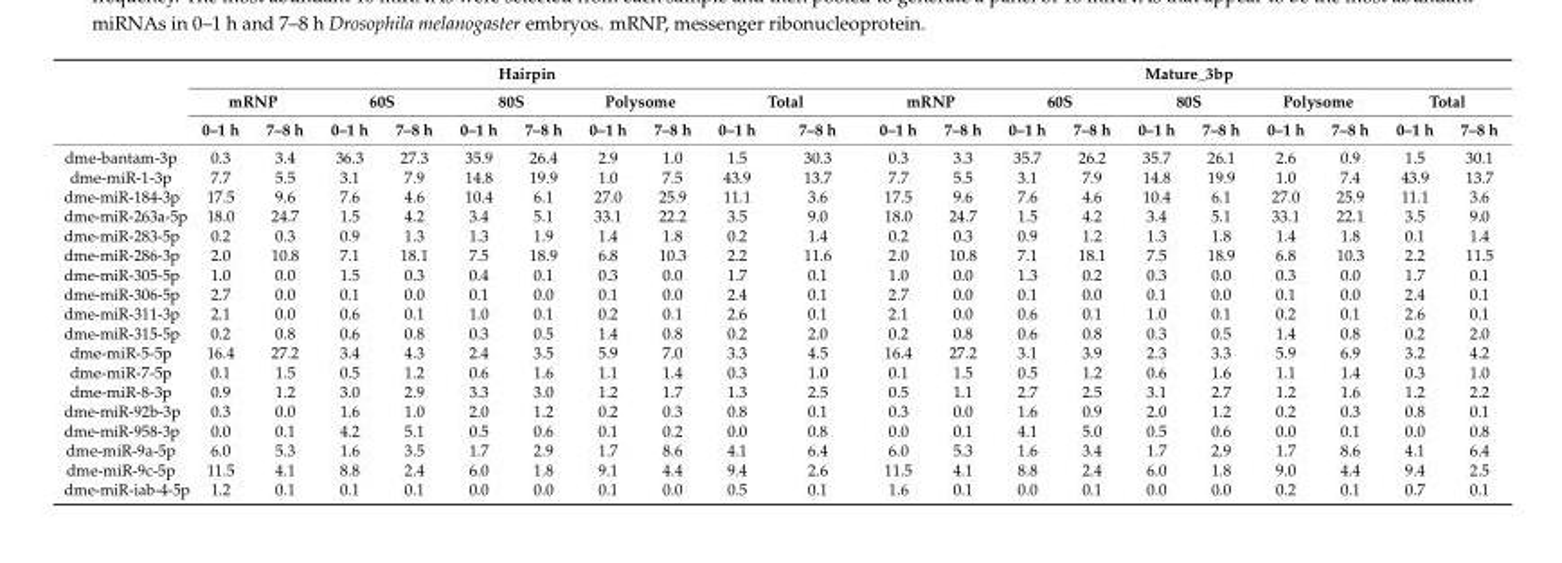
<table><thead><tr><td rowspan="3"></td><td colspan="10">Hairpin</td><td colspan="10">Mature_3bp</td></tr><tr><td colspan="2">mRNP</td><td colspan="2">60S</td><td colspan="2">80S</td><td colspan="2">Polysome</td><td colspan="2">Total</td><td colspan="2">mRNP</td><td colspan="2">60S</td><td colspan="2">80S</td><td colspan="2">Polysome</td><td colspan="2">Total</td></tr><tr><td>0–1 h</td><td>7–8 h</td><td>0–1 h</td><td>7–8 h</td><td>0–1 h</td><td>7–8 h</td><td>0–1 h</td><td>7–8 h</td><td>0–1 h</td><td>7–8 h</td><td>0–1 h</td><td>7–8 h</td><td>0–1 h</td><td>7–8 h</td><td>0–1 h</td><td>7–8 h</td><td>0–1 h</td><td>7–8 h</td><td>0–1 h</td><td>7–8 h</td></tr></thead><tbody><tr><td>dme-bantam-3p</td><td>0.3</td><td>3.4</td><td>36.3</td><td>27.3</td><td>35.9</td><td>26.4</td><td>2.9</td><td>1.0</td><td>1.5</td><td>30.3</td><td>0.3</td><td>3.3</td><td>35.7</td><td>26.2</td><td>35.7</td><td>26.1</td><td>2.6</td><td>0.9</td><td>1.5</td><td>30.1</td></tr><tr><td>dme-miR-1-3p</td><td>7.7</td><td>5.5</td><td>3.1</td><td>7.9</td><td>14.8</td><td>19.9</td><td>1.0</td><td>7.5</td><td>43.9</td><td>13.7</td><td>7.7</td><td>5.5</td><td>3.1</td><td>7.9</td><td>14.8</td><td>19.9</td><td>1.0</td><td>7.4</td><td>43.9</td><td>13.7</td></tr><tr><td>dme-miR-184-3p</td><td>17.5</td><td>9.6</td><td>7.6</td><td>4.6</td><td>10.4</td><td>6.1</td><td>27.0</td><td>25.9</td><td>11.1</td><td>3.6</td><td>17.5</td><td>9.6</td><td>7.6</td><td>4.6</td><td>10.4</td><td>6.1</td><td>27.0</td><td>25.9</td><td>11.1</td><td>3.6</td></tr><tr><td>dme-miR-263a-5p</td><td>18.0</td><td>24.7</td><td>1.5</td><td>4.2</td><td>3.4</td><td>5.1</td><td>33.1</td><td>22.2</td><td>3.5</td><td>9.0</td><td>18.0</td><td>24.7</td><td>1.5</td><td>4.2</td><td>3.4</td><td>5.1</td><td>33.1</td><td>22.1</td><td>3.5</td><td>9.0</td></tr><tr><td>dme-miR-283-5p</td><td>0.2</td><td>0.3</td><td>0.9</td><td>1.3</td><td>1.3</td><td>1.9</td><td>1.4</td><td>1.8</td><td>0.2</td><td>1.4</td><td>0.2</td><td>0.3</td><td>0.9</td><td>1.2</td><td>1.3</td><td>1.8</td><td>1.4</td><td>1.8</td><td>0.1</td><td>1.4</td></tr><tr><td>dme-miR-286-3p</td><td>2.0</td><td>10.8</td><td>7.1</td><td>18.1</td><td>7.5</td><td>18.9</td><td>6.8</td><td>10.3</td><td>2.2</td><td>11.6</td><td>2.0</td><td>10.8</td><td>7.1</td><td>18.1</td><td>7.5</td><td>18.9</td><td>6.8</td><td>10.3</td><td>2.2</td><td>11.5</td></tr><tr><td>dme-miR-305-5p</td><td>1.0</td><td>0.0</td><td>1.5</td><td>0.3</td><td>0.4</td><td>0.1</td><td>0.3</td><td>0.0</td><td>1.7</td><td>0.1</td><td>1.0</td><td>0.0</td><td>1.3</td><td>0.2</td><td>0.3</td><td>0.0</td><td>0.3</td><td>0.0</td><td>1.7</td><td>0.1</td></tr><tr><td>dme-miR-306-5p</td><td>2.7</td><td>0.0</td><td>0.1</td><td>0.0</td><td>0.1</td><td>0.0</td><td>0.1</td><td>0.0</td><td>2.4</td><td>0.1</td><td>2.7</td><td>0.0</td><td>0.1</td><td>0.0</td><td>0.1</td><td>0.0</td><td>0.1</td><td>0.0</td><td>2.4</td><td>0.1</td></tr><tr><td>dme-miR-311-3p</td><td>2.1</td><td>0.0</td><td>0.6</td><td>0.1</td><td>1.0</td><td>0.1</td><td>0.2</td><td>0.1</td><td>2.6</td><td>0.1</td><td>2.1</td><td>0.0</td><td>0.6</td><td>0.1</td><td>1.0</td><td>0.1</td><td>0.2</td><td>0.1</td><td>2.6</td><td>0.1</td></tr><tr><td>dme-miR-315-5p</td><td>0.2</td><td>0.8</td><td>0.6</td><td>0.8</td><td>0.3</td><td>0.5</td><td>1.4</td><td>0.8</td><td>0.2</td><td>2.0</td><td>0.2</td><td>0.8</td><td>0.6</td><td>0.8</td><td>0.3</td><td>0.5</td><td>1.4</td><td>0.8</td><td>0.2</td><td>2.0</td></tr><tr><td>dme-miR-5-5p</td><td>16.4</td><td>27.2</td><td>3.4</td><td>4.3</td><td>2.4</td><td>3.5</td><td>5.9</td><td>7.0</td><td>3.3</td><td>4.5</td><td>16.4</td><td>27.2</td><td>3.1</td><td>3.9</td><td>2.3</td><td>3.3</td><td>5.9</td><td>6.9</td><td>3.2</td><td>4.2</td></tr><tr><td>dme-miR-7-5p</td><td>0.1</td><td>1.5</td><td>0.5</td><td>1.2</td><td>0.6</td><td>1.6</td><td>1.1</td><td>1.4</td><td>0.3</td><td>1.0</td><td>0.1</td><td>1.5</td><td>0.5</td><td>1.2</td><td>0.6</td><td>1.6</td><td>1.1</td><td>1.4</td><td>0.3</td><td>1.0</td></tr><tr><td>dme-miR-8-3p</td><td>0.9</td><td>1.2</td><td>3.0</td><td>2.9</td><td>3.3</td><td>3.0</td><td>1.2</td><td>1.7</td><td>1.3</td><td>2.5</td><td>0.5</td><td>1.1</td><td>2.7</td><td>2.5</td><td>3.1</td><td>2.7</td><td>1.2</td><td>1.6</td><td>1.2</td><td>2.2</td></tr><tr><td>dme-miR-92b-3p</td><td>0.3</td><td>0.0</td><td>1.6</td><td>1.0</td><td>2.0</td><td>1.2</td><td>0.2</td><td>0.3</td><td>0.8</td><td>0.1</td><td>0.3</td><td>0.0</td><td>1.6</td><td>0.9</td><td>2.0</td><td>1.2</td><td>0.2</td><td>0.3</td><td>0.8</td><td>0.1</td></tr><tr><td>dme-miR-958-3p</td><td>0.0</td><td>0.1</td><td>4.2</td><td>5.1</td><td>0.5</td><td>0.6</td><td>0.1</td><td>0.2</td><td>0.0</td><td>0.8</td><td>0.0</td><td>0.1</td><td>4.1</td><td>5.0</td><td>0.5</td><td>0.6</td><td>0.0</td><td>0.1</td><td>0.0</td><td>0.8</td></tr><tr><td>dme-miR-9a-5p</td><td>6.0</td><td>5.3</td><td>1.6</td><td>3.5</td><td>1.7</td><td>2.9</td><td>1.7</td><td>8.6</td><td>4.1</td><td>6.4</td><td>6.0</td><td>5.3</td><td>1.6</td><td>3.4</td><td>1.7</td><td>2.9</td><td>1.7</td><td>8.6</td><td>4.1</td><td>6.4</td></tr><tr><td>dme-miR-9c-5p</td><td>11.5</td><td>4.1</td><td>8.8</td><td>2.4</td><td>6.0</td><td>1.8</td><td>9.1</td><td>4.4</td><td>9.4</td><td>2.6</td><td>11.5</td><td>4.1</td><td>8.8</td><td>2.4</td><td>6.0</td><td>1.8</td><td>9.0</td><td>4.4</td><td>9.4</td><td>2.5</td></tr><tr><td>dme-miR-iab-4-5p</td><td>1.2</td><td>0.1</td><td>0.1</td><td>0.1</td><td>0.0</td><td>0.0</td><td>0.1</td><td>0.0</td><td>0.5</td><td>0.1</td><td>1.6</td><td>0.1</td><td>0.0</td><td>0.1</td><td>0.0</td><td>0.0</td><td>0.2</td><td>0.1</td><td>0.7</td><td>0.1</td></tr></tbody></table>